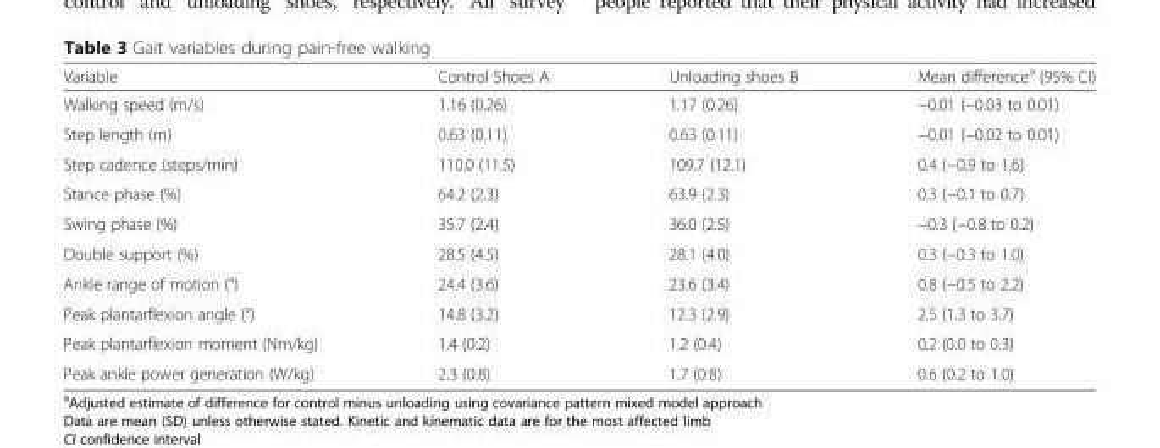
<table><thead><tr><td>Variable</td><td>Control Shoes A</td><td>Unloading shoes B</td><td>Mean difference<sup>a</sup> (95% CI)</td></tr></thead><tbody><tr><td>Walking speed (m/s)</td><td>1.16 (0.26)</td><td>1.17 (0.26)</td><td>−0.01 (−0.03 to 0.01)</td></tr><tr><td>Step length (m)</td><td>0.63 (0.11)</td><td>0.63 (0.11)</td><td>−0.01 (−0.02 to 0.01)</td></tr><tr><td>Step cadence (steps/min)</td><td>110.0 (11.5)</td><td>109.7 (12.1)</td><td>0.4 (−0.9 to 1.6)</td></tr><tr><td>Stance phase (%)</td><td>64.2 (2.3)</td><td>63.9 (2.3)</td><td>0.3 (−0.1 to 0.7)</td></tr><tr><td>Swing phase (%)</td><td>35.7 (2.4)</td><td>36.0 (2.5)</td><td>−0.3 (−0.8 to 0.2)</td></tr><tr><td>Double support (%)</td><td>28.5 (4.5)</td><td>28.1 (4.0)</td><td>0.3 (−0.3 to 1.0)</td></tr><tr><td>Ankle range of motion (°)</td><td>24.4 (3.6)</td><td>23.6 (3.4)</td><td>0.8 (−0.5 to 2.2)</td></tr><tr><td>Peak plantarflexion angle (°)</td><td>14.8 (3.2)</td><td>12.3 (2.9)</td><td>2.5 (1.3 to 3.7)</td></tr><tr><td>Peak plantarflexion moment (Nm/kg)</td><td>1.4 (0.2)</td><td>1.2 (0.4)</td><td>0.2 (0.0 to 0.3)</td></tr><tr><td>Peak ankle power generation (W/kg)</td><td>2.3 (0.8)</td><td>1.7 (0.8)</td><td>0.6 (0.2 to 1.0)</td></tr></tbody></table>